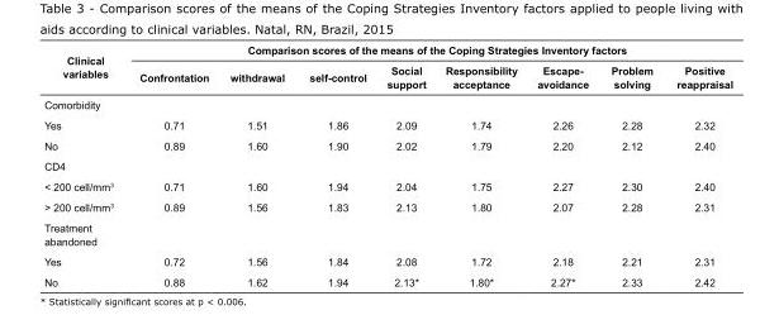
<table><tbody><tr><td rowspan="2">Clinical variables</td><td colspan="8">Comparison scores of the means of the Coping Strategies Inventory factors</td></tr><tr><td>Confrontation</td><td>withdrawal</td><td>self-control</td><td>Social support</td><td>Responsibility acceptance</td><td>Escape- avoidance</td><td>Problem solving</td><td>Positive reappraisal</td></tr><tr><td colspan="9">Comorbidity</td></tr><tr><td>Yes</td><td>0.71</td><td>1.51</td><td>1.86</td><td>2.09</td><td>1.74</td><td>2.26</td><td>2.28</td><td>2.32</td></tr><tr><td>No</td><td>0.89</td><td>1.60</td><td>1.90</td><td>2.02</td><td>1.79</td><td>2.20</td><td>2.12</td><td>2.40</td></tr><tr><td colspan="9">CD4</td></tr><tr><td>&lt; 200 cell/mm<sup>3</sup></td><td>0.71</td><td>1.60</td><td>1.94</td><td>2.04</td><td>1.75</td><td>2.27</td><td>2.30</td><td>2.40</td></tr><tr><td>&gt; 200 cell/mm<sup>3</sup></td><td>0.89</td><td>1.56</td><td>1.83</td><td>2.13</td><td>1.80</td><td>2.07</td><td>2.28</td><td>2.31</td></tr><tr><td colspan="9">Treatment abandoned</td></tr><tr><td>Yes</td><td>0.72</td><td>1.56</td><td>1.84</td><td>2.08</td><td>1.72</td><td>2.18</td><td>2.21</td><td>2.31</td></tr><tr><td>No</td><td>0.88</td><td>1.62</td><td>1.94</td><td>2.13*</td><td>1.80*</td><td>2.27*</td><td>2.33</td><td>2.42</td></tr></tbody></table>